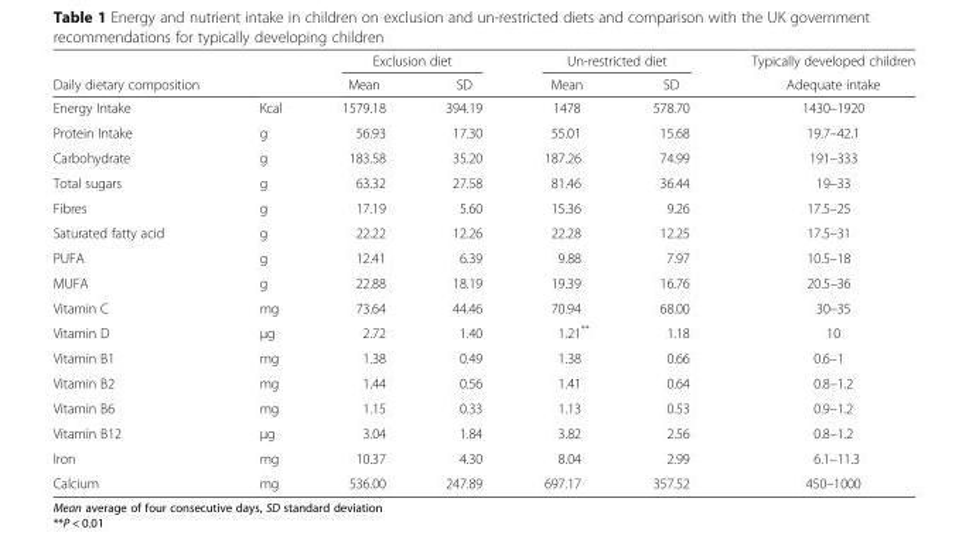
<table><thead><tr><td rowspan="2">Daily dietary composition</td><td rowspan="2"></td><td colspan="2">Exclusion diet</td><td colspan="2">Un-restricted diet</td><td rowspan="2">Typically developed children Adequate intake</td></tr><tr><td>Mean</td><td>SD</td><td>Mean</td><td>SD</td></tr></thead><tbody><tr><td>Energy Intake</td><td>Kcal</td><td>1579.18</td><td>394.19</td><td>1478</td><td>578.70</td><td>1430–1920</td></tr><tr><td>Protein Intake</td><td>g</td><td>56.93</td><td>17.30</td><td>55.01</td><td>15.68</td><td>19.7–42.1</td></tr><tr><td>Carbohydrate</td><td>g</td><td>183.58</td><td>35.20</td><td>187.26</td><td>74.99</td><td>191–333</td></tr><tr><td>Total sugars</td><td>g</td><td>63.32</td><td>27.58</td><td>81.46</td><td>36.44</td><td>19–33</td></tr><tr><td>Fibres</td><td>g</td><td>17.19</td><td>5.60</td><td>15.36</td><td>9.26</td><td>17.5–25</td></tr><tr><td>Saturated fatty acid</td><td>g</td><td>22.22</td><td>12.26</td><td>22.28</td><td>12.25</td><td>17.5–31</td></tr><tr><td>PUFA</td><td>g</td><td>12.41</td><td>6.39</td><td>9.88</td><td>7.97</td><td>10.5–18</td></tr><tr><td>MUFA</td><td>g</td><td>22.88</td><td>18.19</td><td>19.39</td><td>16.76</td><td>20.5–36</td></tr><tr><td>Vitamin C</td><td>mg</td><td>73.64</td><td>44.46</td><td>70.94</td><td>68.00</td><td>30–35</td></tr><tr><td>Vitamin D</td><td>μg</td><td>2.72</td><td>1.40</td><td>1.21**</td><td>1.18</td><td>10</td></tr><tr><td>Vitamin B1</td><td>mg</td><td>1.38</td><td>0.49</td><td>1.38</td><td>0.66</td><td>0.6–1</td></tr><tr><td>Vitamin B2</td><td>mg</td><td>1.44</td><td>0.56</td><td>1.41</td><td>0.64</td><td>0.8–1.2</td></tr><tr><td>Vitamin B6</td><td>mg</td><td>1.15</td><td>0.33</td><td>1.13</td><td>0.53</td><td>0.9–1.2</td></tr><tr><td>Vitamin B12</td><td>μg</td><td>3.04</td><td>1.84</td><td>3.82</td><td>2.56</td><td>0.8–1.2</td></tr><tr><td>Iron</td><td>mg</td><td>10.37</td><td>4.30</td><td>8.04</td><td>2.99</td><td>6.1–11.3</td></tr><tr><td>Calcium</td><td>mg</td><td>536.00</td><td>247.89</td><td>697.17</td><td>357.52</td><td>450–1000</td></tr></tbody></table>